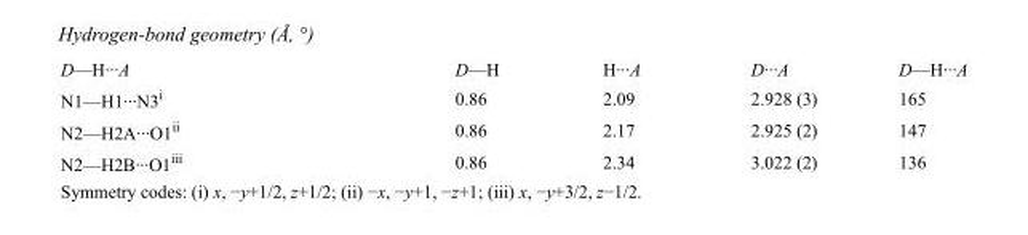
<table><tbody><tr><td>D—H···A</td><td>D—H</td><td>H···A</td><td>D···A</td><td>D—H···A</td></tr><tr><td>N1—H1···N3<sup>i</sup></td><td>0.86</td><td>2.09</td><td>2.928 (3)</td><td>165</td></tr><tr><td>N2—H2A···O1<sup>ii</sup></td><td>0.86</td><td>2.17</td><td>2.925 (2)</td><td>147</td></tr><tr><td>N2—H2B···O1<sup>iii</sup></td><td>0.86</td><td>2.34</td><td>3.022 (2)</td><td>136</td></tr></tbody></table>